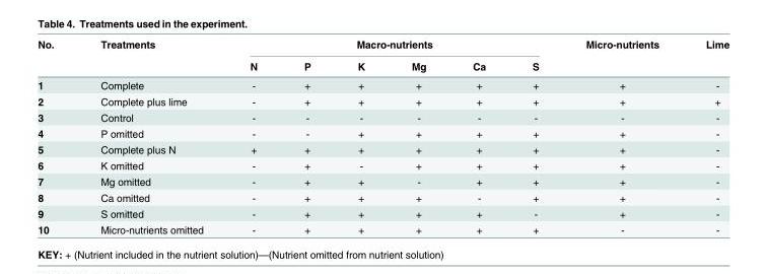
<table><thead><tr><td rowspan="2">No.</td><td rowspan="2">Treatments</td><td colspan="6">Macro-nutrients</td><td rowspan="2">Micro-nutrients</td><td rowspan="2">Lime</td></tr><tr><td>N</td><td>P</td><td>K</td><td>Mg</td><td>Ca</td><td>S</td></tr></thead><tbody><tr><td>1</td><td>Complete</td><td>-</td><td>+</td><td>+</td><td>+</td><td>+</td><td>+</td><td>+</td><td>-</td></tr><tr><td>2</td><td>Complete plus lime</td><td>-</td><td>+</td><td>+</td><td>+</td><td>+</td><td>+</td><td>+</td><td>+</td></tr><tr><td>3</td><td>Control</td><td>-</td><td>-</td><td>-</td><td>-</td><td>-</td><td>-</td><td>-</td><td>-</td></tr><tr><td>4</td><td>P omitted</td><td>-</td><td>-</td><td>+</td><td>+</td><td>+</td><td>+</td><td>+</td><td>-</td></tr><tr><td>5</td><td>Complete plus N</td><td>+</td><td>+</td><td>+</td><td>+</td><td>+</td><td>+</td><td>+</td><td>-</td></tr><tr><td>6</td><td>K omitted</td><td>-</td><td>+</td><td>-</td><td>+</td><td>+</td><td>+</td><td>+</td><td>-</td></tr><tr><td>7</td><td>Mg omitted</td><td>-</td><td>+</td><td>+</td><td>-</td><td>+</td><td>+</td><td>+</td><td>-</td></tr><tr><td>8</td><td>Ca omitted</td><td>-</td><td>+</td><td>+</td><td>+</td><td>-</td><td>+</td><td>+</td><td>-</td></tr><tr><td>9</td><td>S omitted</td><td>-</td><td>+</td><td>+</td><td>+</td><td>+</td><td>-</td><td>+</td><td>-</td></tr><tr><td>10</td><td>Micro-nutrients omitted</td><td>-</td><td>+</td><td>+</td><td>+</td><td>+</td><td>+</td><td>-</td><td>-</td></tr></tbody></table>